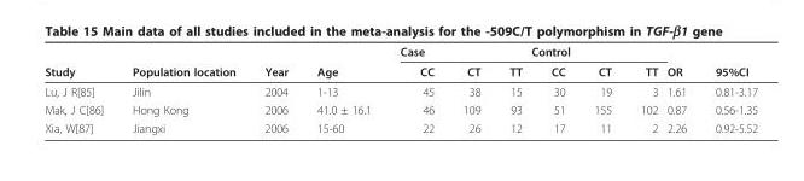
<table><thead><tr><td rowspan="2">Study</td><td rowspan="2">Population location</td><td rowspan="2">Year</td><td rowspan="2">Age</td><td colspan="3">Case</td><td colspan="3">Control</td><td rowspan="2">OR</td><td rowspan="2">95%CI</td></tr><tr><td>CC</td><td>CT</td><td>TT</td><td>CC</td><td>CT</td><td>TT</td></tr></thead><tbody><tr><td>Lu, J R[85]</td><td>Jilin</td><td>2004</td><td>1-13</td><td>45</td><td>38</td><td>15</td><td>30</td><td>19</td><td>3</td><td>1.61</td><td>0.81-3.17</td></tr><tr><td>Mak, J C[86]</td><td>Hong Kong</td><td>2006</td><td>41.0 ± 16.1</td><td>46</td><td>109</td><td>93</td><td>51</td><td>155</td><td>102</td><td>0.87</td><td>0.56-1.35</td></tr><tr><td>Xia, W[87]</td><td>Jiangxi</td><td>2006</td><td>15-60</td><td>22</td><td>26</td><td>12</td><td>17</td><td>11</td><td>2</td><td>2.26</td><td>0.92-5.52</td></tr></tbody></table>